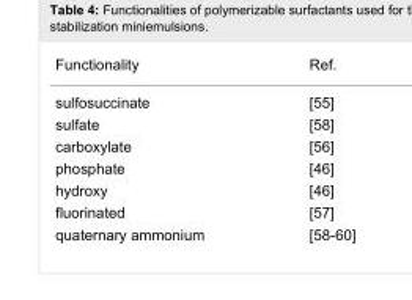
<table><tbody><tr><td>Functionality</td><td>Ref.</td></tr><tr><td>sulfosuccinate</td><td>[55]</td></tr><tr><td>sulfate</td><td>[58]</td></tr><tr><td>carboxylate</td><td>[56]</td></tr><tr><td>phosphate</td><td>[46]</td></tr><tr><td>hydroxy</td><td>[46]</td></tr><tr><td>fluorinated</td><td>[57]</td></tr><tr><td>quaternary ammonium</td><td>[58-60]</td></tr></tbody></table>